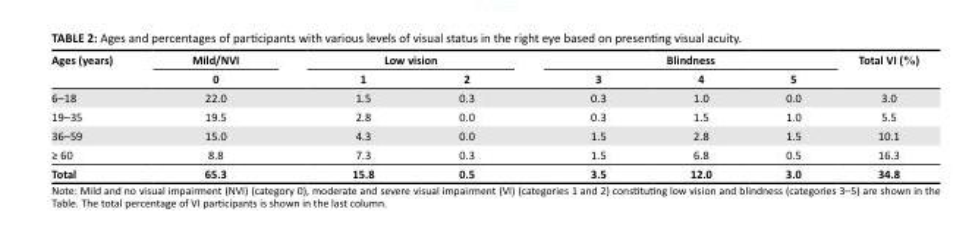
<table><thead><tr><td rowspan="2">Ages (years)</td><td rowspan="2">Mild/NVI 0</td><td colspan="2">Low vision</td><td colspan="3">Blindness</td><td rowspan="2">Total VI (%)</td></tr><tr><td>1</td><td>2</td><td>3</td><td>4</td><td>5</td></tr></thead><tbody><tr><td>6–18</td><td>22.0</td><td>1.5</td><td>0.3</td><td>0.3</td><td>1.0</td><td>0.0</td><td>3.0</td></tr><tr><td>19–35</td><td>19.5</td><td>2.8</td><td>0.0</td><td>0.3</td><td>1.5</td><td>1.0</td><td>5.5</td></tr><tr><td>36–59</td><td>15.0</td><td>4.3</td><td>0.0</td><td>1.5</td><td>2.8</td><td>1.5</td><td>10.1</td></tr><tr><td>≥ 60</td><td>8.8</td><td>7.3</td><td>0.3</td><td>1.5</td><td>6.8</td><td>0.5</td><td>16.3</td></tr><tr><td>Total</td><td>65.3</td><td>15.8</td><td>0.5</td><td>3.5</td><td>12.0</td><td>3.0</td><td>34.8</td></tr></tbody></table>